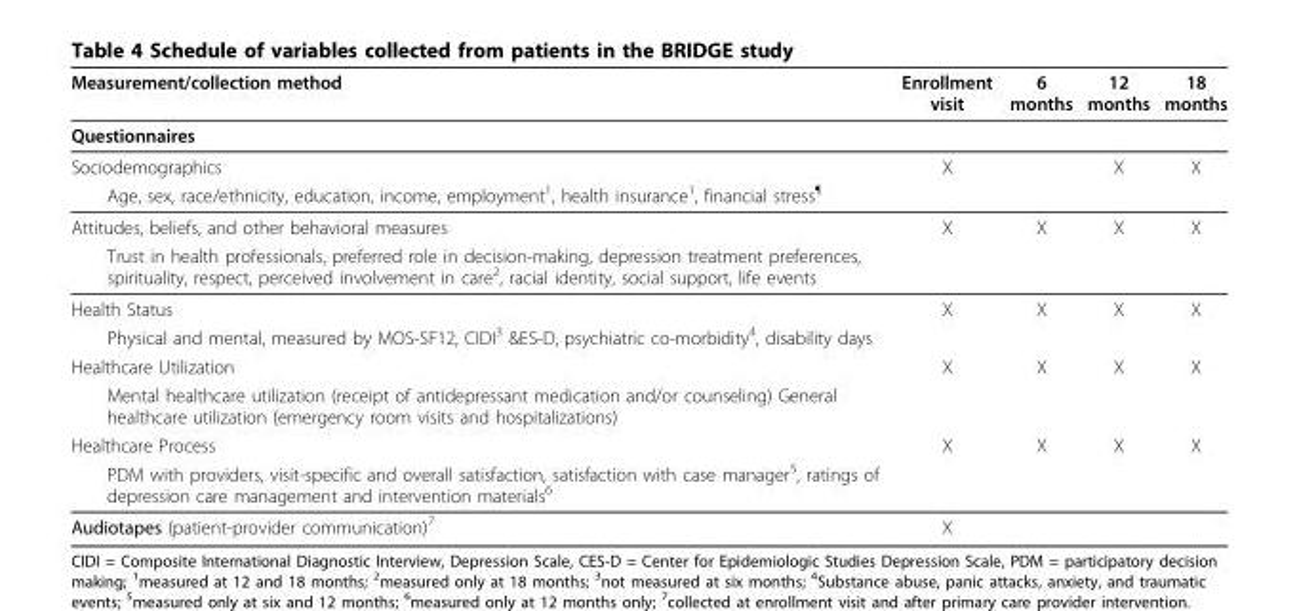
<table><thead><tr><td>Measurement/collection method</td><td>Enrollment visit</td><td>6 months</td><td>12 months</td><td>18 months</td></tr></thead><tbody><tr><td colspan="5">Questionnaires</td></tr><tr><td>Sociodemographics</td><td>X</td><td></td><td>X</td><td>X</td></tr><tr><td colspan="5">Age, sex, race/ethnicity, education, income, employment<sup>1</sup>, health insurance<sup>1</sup>, financial stress<sup>¶</sup></td></tr><tr><td>Attitudes, beliefs, and other behavioral measures</td><td>X</td><td>X</td><td>X</td><td>X</td></tr><tr><td colspan="5">Trust in health professionals, preferred role in decision-making, depression treatment preferences, spirituality, respect, perceived involvement in care<sup>2</sup>, racial identity, social support, life events</td></tr><tr><td>Health Status</td><td>X</td><td>X</td><td>X</td><td>X</td></tr><tr><td colspan="5">Physical and mental, measured by MOS-SF12, CIDI<sup>3</sup> &amp;ES-D, psychiatric co-morbidity<sup>4</sup>, disability days</td></tr><tr><td>Healthcare Utilization</td><td>X</td><td>X</td><td>X</td><td>X</td></tr><tr><td colspan="5">Mental healthcare utilization (receipt of antidepressant medication and/or counseling) General healthcare utilization (emergency room visits and hospitalizations)</td></tr><tr><td>Healthcare Process</td><td>X</td><td>X</td><td>X</td><td>X</td></tr><tr><td colspan="5">PDM with providers, visit-specific and overall satisfaction, satisfaction with case manager<sup>5</sup>, ratings of depression care management and intervention materials<sup>6</sup></td></tr><tr><td>Audiotapes (patient-provider communication)<sup>7</sup></td><td>X</td><td></td><td></td><td></td></tr></tbody></table>